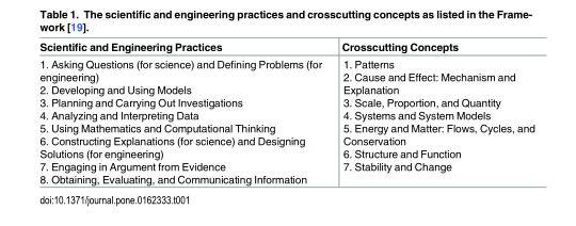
<table><thead><tr><td>Scientific and Engineering Practices</td><td>Crosscutting Concepts</td></tr></thead><tbody><tr><td>1. Asking Questions (for science) and Defining Problems (for engineering) 2. Developing and Using Models 3. Planning and Carrying Out Investigations 4. Analyzing and Interpreting Data 5. Using Mathematics and Computational Thinking 6. Constructing Explanations (for science) and Designing Solutions (for engineering) 7. Engaging in Argument from Evidence 8. Obtaining, Evaluating, and Communicating Information</td><td>1. Patterns 2. Cause and Effect: Mechanism and Explanation 3. Scale, Proportion, and Quantity 4. Systems and System Models 5. Energy and Matter: Flows, Cycles, and Conservation 6. Structure and Function 7. Stability and Change</td></tr></tbody></table>